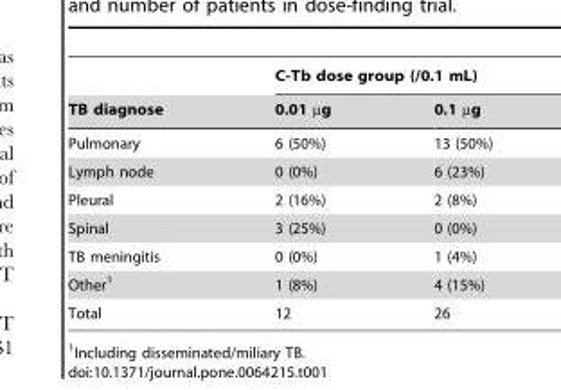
<table><thead><tr><td rowspan="2">TB diagnose</td><td colspan="2">C-Tb dose group (/0.1 mL)</td></tr><tr><td>0.01 µg</td><td>0.1 µg</td></tr></thead><tbody><tr><td>Pulmonary</td><td>6 (50%)</td><td>13 (50%)</td></tr><tr><td>Lymph node</td><td>0 (0%)</td><td>6 (23%)</td></tr><tr><td>Pleural</td><td>2 (16%)</td><td>2 (8%)</td></tr><tr><td>Spinal</td><td>3 (25%)</td><td>0 (0%)</td></tr><tr><td>TB meningitis</td><td>0 (0%)</td><td>1 (4%)</td></tr><tr><td>Other<sup>1</sup></td><td>1 (8%)</td><td>4 (15%)</td></tr><tr><td>Total</td><td>12</td><td>26</td></tr></tbody></table>